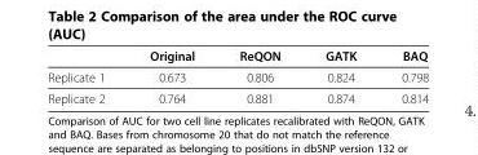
<table><thead><tr><td></td><td>Original</td><td>ReQON</td><td>GATK</td><td>BAQ</td></tr></thead><tbody><tr><td>Replicate 1</td><td>0.673</td><td>0.806</td><td>0.824</td><td>0.798</td></tr><tr><td>Replicate 2</td><td>0.764</td><td>0.881</td><td>0.874</td><td>0.814</td></tr></tbody></table>